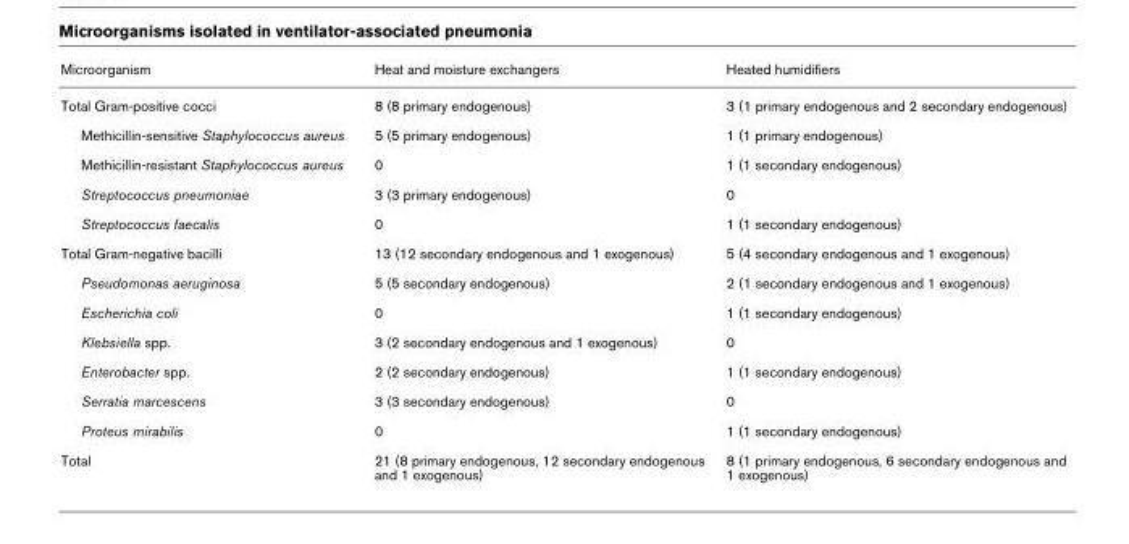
<table><thead><tr><td>Microorganism</td><td>Heat and moisture exchangers</td><td>Heated humidifiers</td></tr></thead><tbody><tr><td>Total Gram-positive cocci</td><td>8 (8 primary endogenous)</td><td>3 (1 primary endogenous and 2 secondary endogenous)</td></tr><tr><td>Methicillin-sensitive Staphylococcus aureus</td><td>5 (5 primary endogenous)</td><td>1 (1 primary endogenous)</td></tr><tr><td>Methicillin-resistant Staphylococcus aureus</td><td>0</td><td>1 (1 secondary endogenous)</td></tr><tr><td>Streptococcus pneumoniae</td><td>3 (3 primary endogenous)</td><td>0</td></tr><tr><td>Streptococcus faecalis</td><td>0</td><td>1 (1 secondary endogenous)</td></tr><tr><td>Total Gram-negative bacilli</td><td>13 (12 secondary endogenous and 1 exogenous)</td><td>5 (4 secondary endogenous and 1 exogenous)</td></tr><tr><td>Pseudomonas aeruginosa</td><td>5 (5 secondary endogenous)</td><td>2 (1 secondary endogenous and 1 exogenous)</td></tr><tr><td>Escherichia coli</td><td>0</td><td>1 (1 secondary endogenous)</td></tr><tr><td>Klebsiella spp.</td><td>3 (2 secondary endogenous and 1 exogenous)</td><td>0</td></tr><tr><td>Enterobacter spp.</td><td>2 (2 secondary endogenous)</td><td>1 (1 secondary endogenous)</td></tr><tr><td>Serratia marcescens</td><td>3 (3 secondary endogenous)</td><td>0</td></tr><tr><td>Proteus mirabilis</td><td>0</td><td>1 (1 secondary endogenous)</td></tr><tr><td>Total</td><td>21 (8 primary endogenous, 12 secondary endogenous and 1 exogenous)</td><td>8 (1 primary endogenous, 6 secondary endogenous and 1 exogenous)</td></tr></tbody></table>